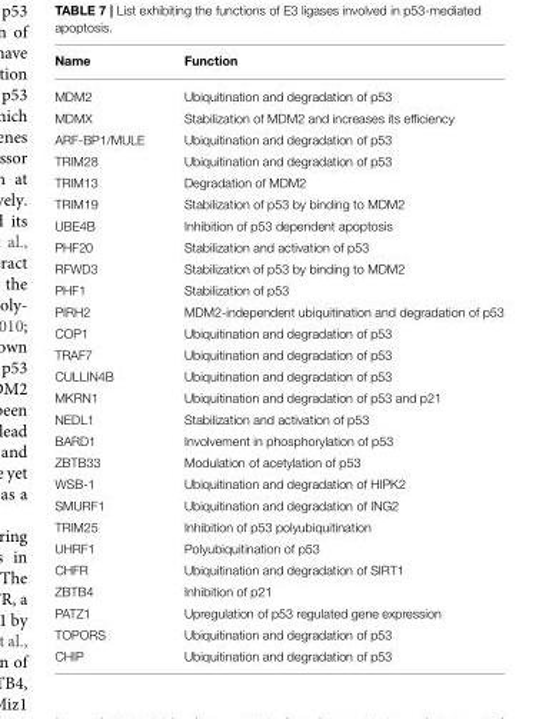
<table><thead><tr><td>Name</td><td>Function</td></tr></thead><tbody><tr><td>MDM2</td><td>Ubiquitination and degradation of p53</td></tr><tr><td>MDMX</td><td>Stabilization of MDM2 and increases its efficiency</td></tr><tr><td>ARF-BP1/MULE</td><td>Ubiquitination and degradation of p53</td></tr><tr><td>TRIM28</td><td>Ubiquitination and degradation of p53</td></tr><tr><td>TRIM13</td><td>Degradation of MDM2</td></tr><tr><td>TRIM19</td><td>Stabilization of p53 by binding to MDM2</td></tr><tr><td>UBE4B</td><td>Inhibition of p53 dependent apoptosis</td></tr><tr><td>PHF20</td><td>Stabilization and activation of p53</td></tr><tr><td>RFWD3</td><td>Stabilization of p53 by binding to MDM2</td></tr><tr><td>PHF1</td><td>Stabilization of p53</td></tr><tr><td>PIRH2</td><td>MDM2-independent ubiquitination and degradation of p53</td></tr><tr><td>COP1</td><td>Ubiquitination and degradation of p53</td></tr><tr><td>TRAF7</td><td>Ubiquitination and degradation of p53</td></tr><tr><td>CULLIN4B</td><td>Ubiquitination and degradation of p53</td></tr><tr><td>MKRN1</td><td>Ubiquitination and degradation of p53 and p21</td></tr><tr><td>NEDL1</td><td>Stabilization and activation of p53</td></tr><tr><td>BARD1</td><td>Involvement in phosphorylation of p53</td></tr><tr><td>ZBTB33</td><td>Modulation of acetylation of p53</td></tr><tr><td>WSB-1</td><td>Ubiquitination and degradation of HIPK2</td></tr><tr><td>SMURF1</td><td>Ubiquitination and degradation of ING2</td></tr><tr><td>TRIM25</td><td>Inhibition of p53 polyubiquitination</td></tr><tr><td>UHRF1</td><td>Polyubiquitination of p53</td></tr><tr><td>CHFR</td><td>Ubiquitination and degradation of SIRT1</td></tr><tr><td>ZBTB4</td><td>Inhibition of p21</td></tr><tr><td>PATZ1</td><td>Upregulation of p53 regulated gene expression</td></tr><tr><td>TOPORS</td><td>Ubiquitination and degradation of p53</td></tr><tr><td>CHIP</td><td>Ubiquitination and degradation of p53</td></tr></tbody></table>